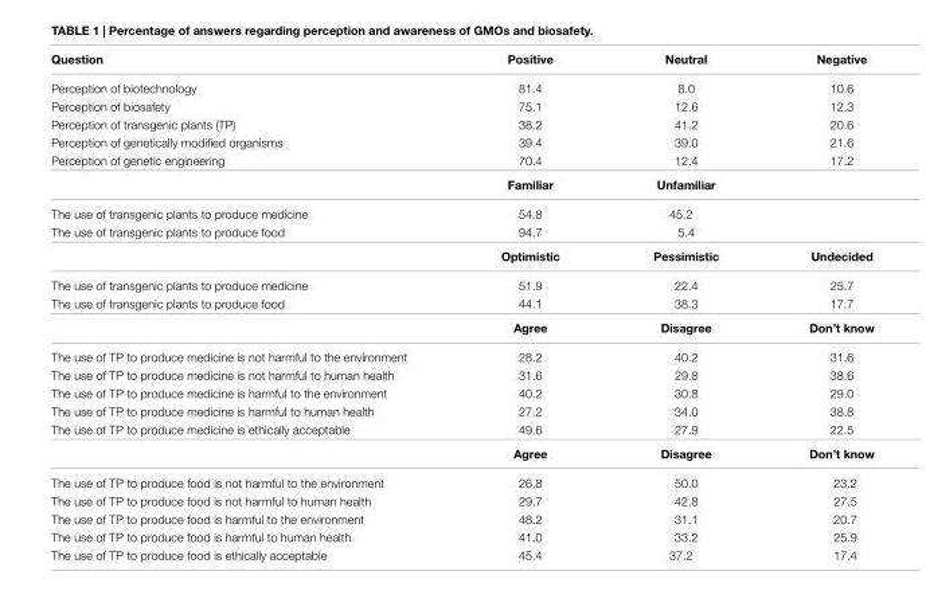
<table><thead><tr><td>Question</td><td>Positive</td><td>neutral</td><td>negative</td></tr></thead><tbody><tr><td>Perception of biotechnology</td><td>81.4</td><td>8.0</td><td>10.6</td></tr><tr><td>Perception of biosafety</td><td>75.1</td><td>12.6</td><td>12.3</td></tr><tr><td>Perception of transgenic plants (TP)</td><td>38.2</td><td>41.2</td><td>20.6</td></tr><tr><td>Perception of genetically modified organisms</td><td>39.4</td><td>39.0</td><td>21.6</td></tr><tr><td rowspan="2">Perception of genetic engineering</td><td>70.4</td><td>12.4</td><td>17.2</td></tr><tr><td>Familiar</td><td>Unfamiliar</td><td></td></tr><tr><td>The use of transgenic plants to produce medicine</td><td>54.8</td><td>45.2</td><td></td></tr><tr><td rowspan="2">The use of transgenic plants to produce food</td><td>94.7</td><td>5.4</td><td></td></tr><tr><td>Optimistic</td><td>Pessimistic</td><td>Undecided</td></tr><tr><td>The use of transgenic plants to produce medicine</td><td>51.9</td><td>22.4</td><td>25.7</td></tr><tr><td rowspan="2">The use of transgenic plants to produce food</td><td>44.1</td><td>38.3</td><td>17.7</td></tr><tr><td>agree</td><td>Disagree</td><td>Don’t know</td></tr><tr><td>The use of TP to produce medicine is not harmful to the environment</td><td>28.2</td><td>40.2</td><td>31.6</td></tr><tr><td>The use of TP to produce medicine is not harmful to human health</td><td>31.6</td><td>29.8</td><td>38.6</td></tr><tr><td>The use of TP to produce medicine is harmful to the environment</td><td>40.2</td><td>30.8</td><td>29.0</td></tr><tr><td>The use of TP to produce medicine is harmful to human health</td><td>27.2</td><td>34.0</td><td>38.8</td></tr><tr><td rowspan="2">The use of TP to produce medicine is ethically acceptable</td><td>49.6</td><td>27.9</td><td>22.5</td></tr><tr><td>agree</td><td>Disagree</td><td>Don’t know</td></tr><tr><td>The use of TP to produce food is not harmful to the environment</td><td>26.8</td><td>50.0</td><td>23.2</td></tr><tr><td>The use of TP to produce food is not harmful to human health</td><td>29.7</td><td>42.8</td><td>27.5</td></tr><tr><td>The use of TP to produce food is harmful to the environment</td><td>48.2</td><td>31.1</td><td>20.7</td></tr><tr><td>The use of TP to produce food is harmful to human health</td><td>41.0</td><td>33.2</td><td>25.9</td></tr><tr><td>The use of TP to produce food is ethically acceptable</td><td>45.4</td><td>37.2</td><td>17.4</td></tr></tbody></table>